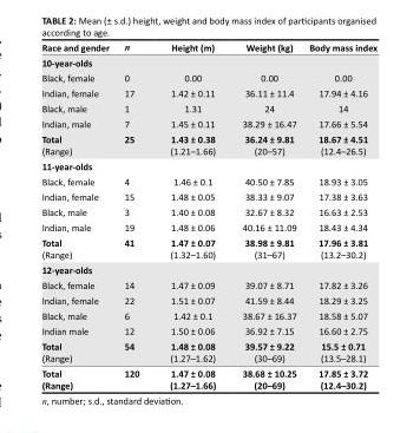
<table><thead><tr><td>Race and gender</td><td>n</td><td>Height (m)</td><td>Weight (kg)</td><td>Body mass index</td></tr></thead><tbody><tr><td colspan="5">10-year-olds</td></tr><tr><td>Black, female</td><td>0</td><td>0.00</td><td>0.00</td><td>0.00</td></tr><tr><td>Indian, female</td><td>17</td><td>1.42 ± 0.11</td><td>36.11 ± 11.4</td><td>17.94 ± 4.16</td></tr><tr><td>Black, male</td><td>1</td><td>1.31</td><td>24</td><td>14</td></tr><tr><td>Indian, male</td><td>7</td><td>1.45 ± 0.11</td><td>38.29 ± 16.47</td><td>17.66 ± 5.54</td></tr><tr><td>Total (Range)</td><td>25</td><td>1.43 ± 0.38 (1.21–1.66)</td><td>36.24 ± 9.81 (20–57)</td><td>18.67 ± 4.51 (12.4–26.5)</td></tr><tr><td colspan="5">11-year-olds</td></tr><tr><td>Black, female</td><td>4</td><td>1.46 ± 0.1</td><td>40.50 ± 7.85</td><td>18.93 ± 3.05</td></tr><tr><td>Indian, female</td><td>15</td><td>1.48 ± 0.05</td><td>38.33 ± 9.07</td><td>17.38 ± 3.63</td></tr><tr><td>Black, male</td><td>3</td><td>1.40 ± 0.08</td><td>32.67 ± 8.32</td><td>16.63 ± 2.53</td></tr><tr><td>Indian, male</td><td>19</td><td>1.48 ± 0.06</td><td>40.16 ± 11.09</td><td>18.43 ± 4.34</td></tr><tr><td>Total (Range)</td><td>41</td><td>1.47 ± 0.07 (1.32–1.60)</td><td>38.98 ± 9.81 (31–67)</td><td>17.96 ± 3.81 (13.2–30.2)</td></tr><tr><td colspan="5">12-year-olds</td></tr><tr><td>Black, female</td><td>14</td><td>1.47 ± 0.09</td><td>39.07 ± 8.71</td><td>17.82 ± 3.26</td></tr><tr><td>Indian, female</td><td>22</td><td>1.51 ± 0.07</td><td>41.59 ± 8.44</td><td>18.29 ± 3.25</td></tr><tr><td>Black, male</td><td>6</td><td>1.42 ± 0.1</td><td>38.67 ± 16.37</td><td>18.58 ± 5.07</td></tr><tr><td>Indian male</td><td>12</td><td>1.50 ± 0.06</td><td>36.92 ± 7.15</td><td>16.60 ± 2.75</td></tr><tr><td>Total (Range)</td><td>54</td><td>1.48 ± 0.08 (1.27–1.62)</td><td>39.57 ± 9.22 (30–69)</td><td>15.5 ± 0.71 (13.5–28.1)</td></tr><tr><td>Total (Range)</td><td>120</td><td>1.47 ± 0.08 (1.27–1.66)</td><td>38.68 ± 10.25 (20–69)</td><td>17.85 ± 3.72 (12.4–30.2)</td></tr></tbody></table>